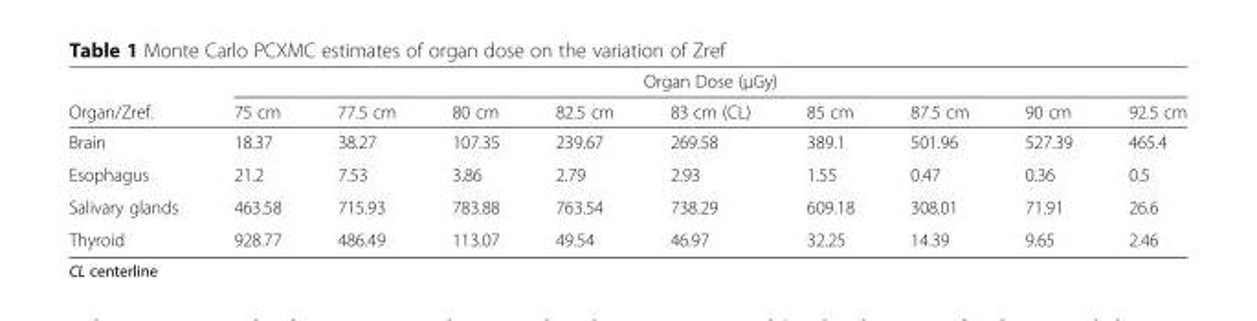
<table><thead><tr><td rowspan="2">Organ/Zref.</td><td colspan="9">Organ Dose (μGy)</td></tr><tr><td>75 cm</td><td>77.5 cm</td><td>80 cm</td><td>82.5 cm</td><td>83 cm (CL)</td><td>85 cm</td><td>87.5 cm</td><td>90 cm</td><td>92.5 cm</td></tr></thead><tbody><tr><td>Brain</td><td>18.37</td><td>38.27</td><td>107.35</td><td>239.67</td><td>269.58</td><td>389.1</td><td>501.96</td><td>527.39</td><td>465.4</td></tr><tr><td>Esophagus</td><td>21.2</td><td>7.53</td><td>3.86</td><td>2.79</td><td>2.93</td><td>1.55</td><td>0.47</td><td>0.36</td><td>0.5</td></tr><tr><td>Salivary glands</td><td>463.58</td><td>715.93</td><td>783.88</td><td>763.54</td><td>738.29</td><td>609.18</td><td>308.01</td><td>71.91</td><td>26.6</td></tr><tr><td>Thyroid</td><td>928.77</td><td>486.49</td><td>113.07</td><td>49.54</td><td>46.97</td><td>32.25</td><td>14.39</td><td>9.65</td><td>2.46</td></tr></tbody></table>